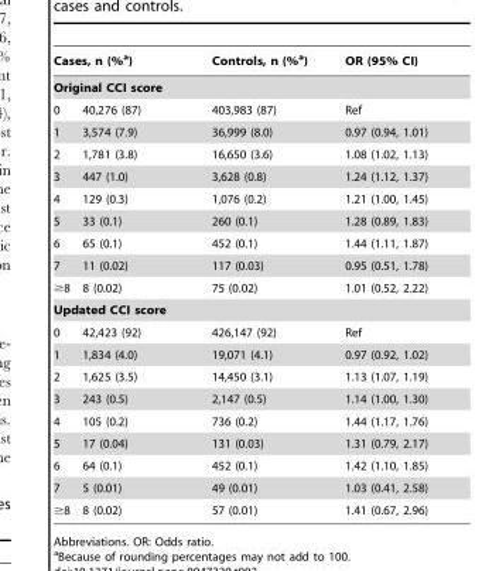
<table><thead><tr><td colspan="2">Cases, n (%<sup>a</sup>)</td><td>Controls, n (%<sup>a</sup>)</td><td>OR (95% CI)</td></tr><tr><td colspan="4">Original CCI score</td></tr><tr><td>0</td><td>40,276 (87)</td><td>403,983 (87)</td><td>Ref</td></tr></thead><tbody><tr><td>1</td><td>3,574 (7.9)</td><td>36,999 (8.0)</td><td>0.97 (0.94, 1.01)</td></tr><tr><td>2</td><td>1,781 (3.8)</td><td>16,650 (3.6)</td><td>1.08 (1.02, 1.13)</td></tr><tr><td>3</td><td>447 (1.0)</td><td>3,628 (0.8)</td><td>1.24 (1.12, 1.37)</td></tr><tr><td>4</td><td>129 (0.3)</td><td>1,076 (0.2)</td><td>1.21 (1.00, 1.45)</td></tr><tr><td>5</td><td>33 (0.1)</td><td>260 (0.1)</td><td>1.28 (0.89, 1.83)</td></tr><tr><td>6</td><td>65 (0.1)</td><td>452 (0.1)</td><td>1.44 (1.11, 1.87)</td></tr><tr><td>7</td><td>11 (0.02)</td><td>117 (0.03)</td><td>0.95 (0.51, 1.78)</td></tr><tr><td>≥8</td><td>8 (0.02)</td><td>75 (0.02)</td><td>1.01 (0.52, 2.22)</td></tr><tr><td colspan="4">Updated CCI score</td></tr><tr><td>0</td><td>42,423 (92)</td><td>426,147 (92)</td><td>Ref</td></tr><tr><td>1</td><td>1,834 (4.0)</td><td>19,071 (4.1)</td><td>0.97 (0.92, 1.02)</td></tr><tr><td>2</td><td>1,625 (3.5)</td><td>14,450 (3.1)</td><td>1.13 (1.07, 1.19)</td></tr><tr><td>3</td><td>243 (0.5)</td><td>2,147 (0.5)</td><td>1.14 (1.00, 1.30)</td></tr><tr><td>4</td><td>105 (0.2)</td><td>736 (0.2)</td><td>1.44 (1.17, 1.76)</td></tr><tr><td>5</td><td>17 (0.04)</td><td>131 (0.03)</td><td>1.31 (0.79, 2.17)</td></tr><tr><td>6</td><td>64 (0.1)</td><td>452 (0.1)</td><td>1.42 (1.10, 1.85)</td></tr><tr><td>7</td><td>5 (0.01)</td><td>49 (0.01)</td><td>1.03 (0.41, 2.58)</td></tr><tr><td>≥8</td><td>8 (0.02)</td><td>57 (0.01)</td><td>1.41 (0.67, 2.96)</td></tr></tbody></table>